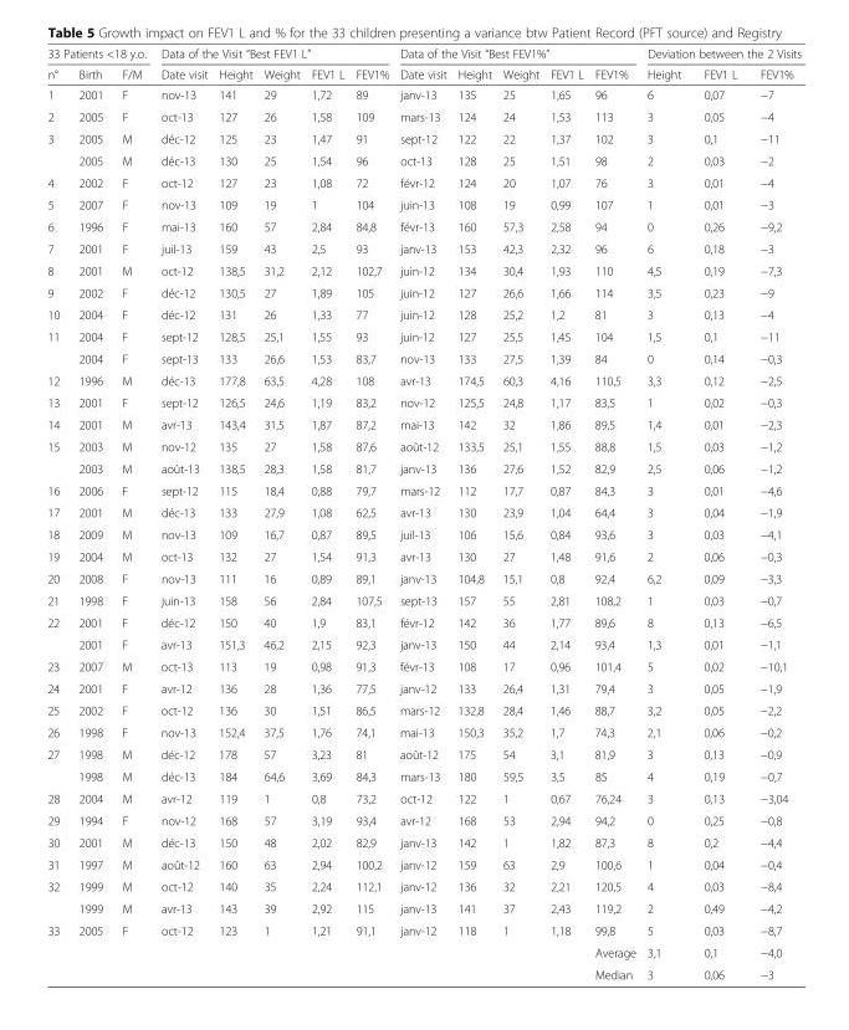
<table><thead><tr><td colspan="3">33 Patients &lt;18 y.o.</td><td colspan="5">Data of the Visit “Best FEV1 L”</td><td colspan="5">Data of the Visit “Best FEV1%”</td><td colspan="3">Deviation between the 2 Visits</td></tr><tr><td>n°</td><td>Birth</td><td>F/M</td><td>Date visit</td><td>Height</td><td>Weight</td><td>FEV1 L</td><td>FEV1%</td><td>Date visit</td><td>Height</td><td>Weight</td><td>FEV1 L</td><td>FEV1%</td><td>Height</td><td>FEV1 L</td><td>FEV1%</td></tr></thead><tbody><tr><td>1</td><td>2001</td><td>F</td><td>nov-13</td><td>141</td><td>29</td><td>1,72</td><td>89</td><td>janv-13</td><td>135</td><td>25</td><td>1,65</td><td>96</td><td>6</td><td>0,07</td><td>−7</td></tr><tr><td>2</td><td>2005</td><td>F</td><td>oct-13</td><td>127</td><td>26</td><td>1,58</td><td>109</td><td>mars-13</td><td>124</td><td>24</td><td>1,53</td><td>113</td><td>3</td><td>0,05</td><td>−4</td></tr><tr><td rowspan="2">3</td><td>2005</td><td>M</td><td>déc-12</td><td>125</td><td>23</td><td>1,47</td><td>91</td><td>sept-12</td><td>122</td><td>22</td><td>1,37</td><td>102</td><td>3</td><td>0,1</td><td>−11</td></tr><tr><td>2005</td><td>M</td><td>déc-13</td><td>130</td><td>25</td><td>1,54</td><td>96</td><td>oct-13</td><td>128</td><td>25</td><td>1,51</td><td>98</td><td>2</td><td>0,03</td><td>−2</td></tr><tr><td>4</td><td>2002</td><td>F</td><td>oct-12</td><td>127</td><td>23</td><td>1,08</td><td>72</td><td>févr-12</td><td>124</td><td>20</td><td>1,07</td><td>76</td><td>3</td><td>0,01</td><td>−4</td></tr><tr><td>5</td><td>2007</td><td>F</td><td>nov-13</td><td>109</td><td>19</td><td>1</td><td>104</td><td>juin-13</td><td>108</td><td>19</td><td>0,99</td><td>107</td><td>1</td><td>0,01</td><td>−3</td></tr><tr><td>6</td><td>1996</td><td>F</td><td>mai-13</td><td>160</td><td>57</td><td>2,84</td><td>84,8</td><td>févr-13</td><td>160</td><td>57,3</td><td>2,58</td><td>94</td><td>0</td><td>0,26</td><td>−9,2</td></tr><tr><td>7</td><td>2001</td><td>F</td><td>juil-13</td><td>159</td><td>43</td><td>2,5</td><td>93</td><td>janv-13</td><td>153</td><td>42,3</td><td>2,32</td><td>96</td><td>6</td><td>0,18</td><td>−3</td></tr><tr><td>8</td><td>2001</td><td>M</td><td>oct-12</td><td>138,5</td><td>31,2</td><td>2,12</td><td>102,7</td><td>juin-12</td><td>134</td><td>30,4</td><td>1,93</td><td>110</td><td>4,5</td><td>0,19</td><td>−7,3</td></tr><tr><td>9</td><td>2002</td><td>F</td><td>déc-12</td><td>130,5</td><td>27</td><td>1,89</td><td>105</td><td>juin-12</td><td>127</td><td>26,6</td><td>1,66</td><td>114</td><td>3,5</td><td>0,23</td><td>−9</td></tr><tr><td>10</td><td>2004</td><td>F</td><td>déc-12</td><td>131</td><td>26</td><td>1,33</td><td>77</td><td>juin-12</td><td>128</td><td>25,2</td><td>1,2</td><td>81</td><td>3</td><td>0,13</td><td>−4</td></tr><tr><td rowspan="2">11</td><td>2004</td><td>F</td><td>sept-12</td><td>128,5</td><td>25,1</td><td>1,55</td><td>93</td><td>juin-12</td><td>127</td><td>25,5</td><td>1,45</td><td>104</td><td>1,5</td><td>0,1</td><td>−11</td></tr><tr><td>2004</td><td>F</td><td>sept-13</td><td>133</td><td>26,6</td><td>1,53</td><td>83,7</td><td>nov-13</td><td>133</td><td>27,5</td><td>1,39</td><td>84</td><td>0</td><td>0,14</td><td>−0,3</td></tr><tr><td>12</td><td>1996</td><td>M</td><td>déc-13</td><td>177,8</td><td>63,5</td><td>4,28</td><td>108</td><td>avr-13</td><td>174,5</td><td>60,3</td><td>4,16</td><td>110,5</td><td>3,3</td><td>0,12</td><td>−2,5</td></tr><tr><td>13</td><td>2001</td><td>F</td><td>sept-12</td><td>126,5</td><td>24,6</td><td>1,19</td><td>83,2</td><td>nov-12</td><td>125,5</td><td>24,8</td><td>1,17</td><td>83,5</td><td>1</td><td>0,02</td><td>−0,3</td></tr><tr><td>14</td><td>2001</td><td>M</td><td>avr-13</td><td>143,4</td><td>31,5</td><td>1,87</td><td>87,2</td><td>mai-13</td><td>142</td><td>32</td><td>1,86</td><td>89,5</td><td>1,4</td><td>0,01</td><td>−2,3</td></tr><tr><td rowspan="2">15</td><td>2003</td><td>M</td><td>nov-12</td><td>135</td><td>27</td><td>1,58</td><td>87,6</td><td>août-12</td><td>133,5</td><td>25,1</td><td>1,55</td><td>88,8</td><td>1,5</td><td>0,03</td><td>−1,2</td></tr><tr><td>2003</td><td>M</td><td>août-13</td><td>138,5</td><td>28,3</td><td>1,58</td><td>81,7</td><td>janv-13</td><td>136</td><td>27,6</td><td>1,52</td><td>82,9</td><td>2,5</td><td>0,06</td><td>−1,2</td></tr><tr><td>16</td><td>2006</td><td>F</td><td>sept-12</td><td>115</td><td>18,4</td><td>0,88</td><td>79,7</td><td>mars-12</td><td>112</td><td>17,7</td><td>0,87</td><td>84,3</td><td>3</td><td>0,01</td><td>−4,6</td></tr><tr><td>17</td><td>2001</td><td>M</td><td>déc-13</td><td>133</td><td>27,9</td><td>1,08</td><td>62,5</td><td>avr-13</td><td>130</td><td>23,9</td><td>1,04</td><td>64,4</td><td>3</td><td>0,04</td><td>−1,9</td></tr><tr><td>18</td><td>2009</td><td>M</td><td>nov-13</td><td>109</td><td>16,7</td><td>0,87</td><td>89,5</td><td>juil-13</td><td>106</td><td>15,6</td><td>0,84</td><td>93,6</td><td>3</td><td>0,03</td><td>−4,1</td></tr><tr><td>19</td><td>2004</td><td>M</td><td>oct-13</td><td>132</td><td>27</td><td>1,54</td><td>91,3</td><td>avr-13</td><td>130</td><td>27</td><td>1,48</td><td>91,6</td><td>2</td><td>0,06</td><td>−0,3</td></tr><tr><td>20</td><td>2008</td><td>F</td><td>nov-13</td><td>111</td><td>16</td><td>0,89</td><td>89,1</td><td>janv-13</td><td>104,8</td><td>15,1</td><td>0,8</td><td>92,4</td><td>6,2</td><td>0,09</td><td>−3,3</td></tr><tr><td>21</td><td>1998</td><td>F</td><td>juin-13</td><td>158</td><td>56</td><td>2,84</td><td>107,5</td><td>sept-13</td><td>157</td><td>55</td><td>2,81</td><td>108,2</td><td>1</td><td>0,03</td><td>−0,7</td></tr><tr><td rowspan="2">22</td><td>2001</td><td>F</td><td>déc-12</td><td>150</td><td>40</td><td>1,9</td><td>83,1</td><td>févr-12</td><td>142</td><td>36</td><td>1,77</td><td>89,6</td><td>8</td><td>0,13</td><td>−6,5</td></tr><tr><td>2001</td><td>F</td><td>avr-13</td><td>151,3</td><td>46,2</td><td>2,15</td><td>92,3</td><td>janv-13</td><td>150</td><td>44</td><td>2,14</td><td>93,4</td><td>1,3</td><td>0,01</td><td>−1,1</td></tr><tr><td>23</td><td>2007</td><td>M</td><td>oct-13</td><td>113</td><td>19</td><td>0,98</td><td>91,3</td><td>févr-13</td><td>108</td><td>17</td><td>0,96</td><td>101,4</td><td>5</td><td>0,02</td><td>−10,1</td></tr><tr><td>24</td><td>2001</td><td>F</td><td>avr-12</td><td>136</td><td>28</td><td>1,36</td><td>77,5</td><td>janv-12</td><td>133</td><td>26,4</td><td>1,31</td><td>79,4</td><td>3</td><td>0,05</td><td>−1,9</td></tr><tr><td>25</td><td>2002</td><td>F</td><td>oct-12</td><td>136</td><td>30</td><td>1,51</td><td>86,5</td><td>mars-12</td><td>132,8</td><td>28,4</td><td>1,46</td><td>88,7</td><td>3,2</td><td>0,05</td><td>−2,2</td></tr><tr><td>26</td><td>1998</td><td>F</td><td>nov-13</td><td>152,4</td><td>37,5</td><td>1,76</td><td>74,1</td><td>mai-13</td><td>150,3</td><td>35,2</td><td>1,7</td><td>74,3</td><td>2,1</td><td>0,06</td><td>−0,2</td></tr><tr><td rowspan="2">27</td><td>1998</td><td>M</td><td>déc-12</td><td>178</td><td>57</td><td>3,23</td><td>81</td><td>août-12</td><td>175</td><td>54</td><td>3,1</td><td>81,9</td><td>3</td><td>0,13</td><td>−0,9</td></tr><tr><td>1998</td><td>M</td><td>déc-13</td><td>184</td><td>64,6</td><td>3,69</td><td>84,3</td><td>mars-13</td><td>180</td><td>59,5</td><td>3,5</td><td>85</td><td>4</td><td>0,19</td><td>−0,7</td></tr><tr><td>28</td><td>2004</td><td>M</td><td>avr-12</td><td>119</td><td>1</td><td>0,8</td><td>73,2</td><td>oct-12</td><td>122</td><td>1</td><td>0,67</td><td>76,24</td><td>3</td><td>0,13</td><td>−3,04</td></tr><tr><td>29</td><td>1994</td><td>F</td><td>nov-12</td><td>168</td><td>57</td><td>3,19</td><td>93,4</td><td>avr-12</td><td>168</td><td>53</td><td>2,94</td><td>94,2</td><td>0</td><td>0,25</td><td>−0,8</td></tr><tr><td>30</td><td>2001</td><td>M</td><td>déc-13</td><td>150</td><td>48</td><td>2,02</td><td>82,9</td><td>janv-13</td><td>142</td><td>1</td><td>1,82</td><td>87,3</td><td>8</td><td>0,2</td><td>−4,4</td></tr><tr><td>31</td><td>1997</td><td>M</td><td>août-12</td><td>160</td><td>63</td><td>2,94</td><td>100,2</td><td>janv-12</td><td>159</td><td>63</td><td>2,9</td><td>100,6</td><td>1</td><td>0,04</td><td>−0,4</td></tr><tr><td rowspan="2">32</td><td>1999</td><td>M</td><td>oct-12</td><td>140</td><td>35</td><td>2,24</td><td>112,1</td><td>janv-12</td><td>136</td><td>32</td><td>2,21</td><td>120,5</td><td>4</td><td>0,03</td><td>−8,4</td></tr><tr><td>1999</td><td>M</td><td>avr-13</td><td>143</td><td>39</td><td>2,92</td><td>115</td><td>janv-13</td><td>141</td><td>37</td><td>2,43</td><td>119,2</td><td>2</td><td>0,49</td><td>−4,2</td></tr><tr><td rowspan="3">33</td><td>2005</td><td>F</td><td>oct-12</td><td>123</td><td>1</td><td>1,21</td><td>91,1</td><td>janv-12</td><td>118</td><td>1</td><td>1,18</td><td>99,8</td><td>5</td><td>0,03</td><td>−8,7</td></tr><tr><td></td><td></td><td></td><td></td><td></td><td></td><td></td><td></td><td></td><td></td><td></td><td>Average</td><td>3,1</td><td>0,1</td><td>−4,0</td></tr><tr><td></td><td></td><td></td><td></td><td></td><td></td><td></td><td></td><td></td><td></td><td></td><td>Median</td><td>3</td><td>0,06</td><td>−3</td></tr></tbody></table>